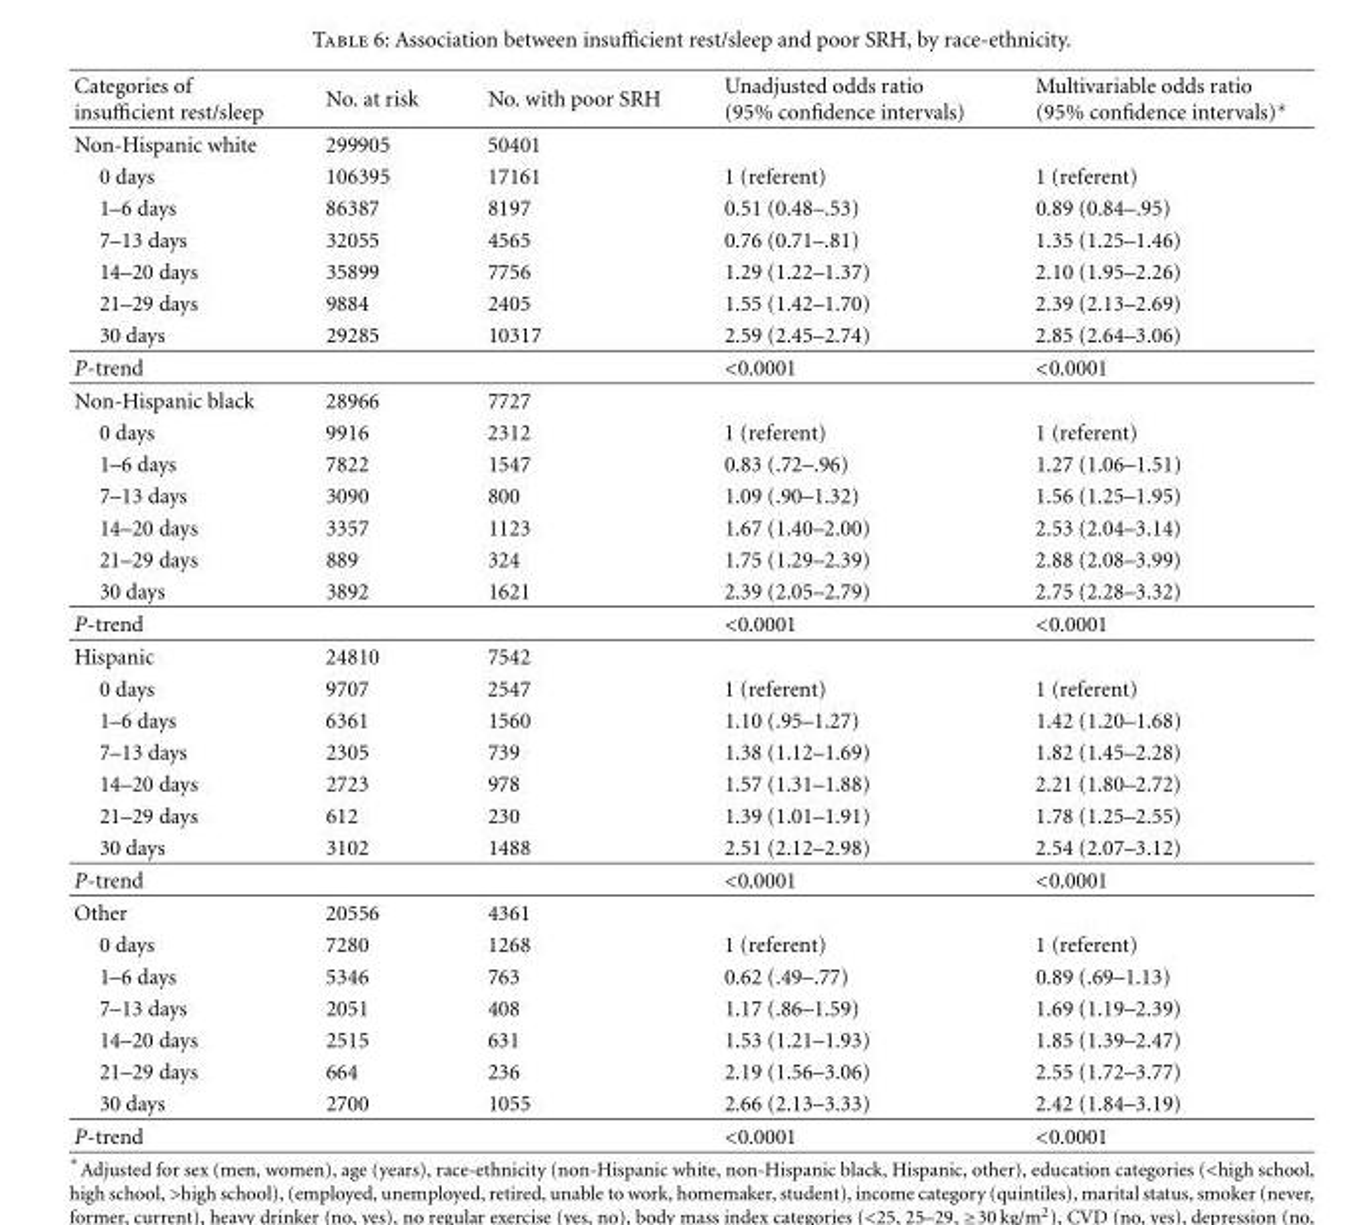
<table><thead><tr><td>Categories of insufficient rest/sleep</td><td>No. at risk</td><td>No. with poor SRH</td><td>Unadjusted odds ratio (95% confidence intervals)</td><td>Multivariable odds ratio (95% confidence intervals)∗</td></tr></thead><tbody><tr><td>Non-Hispanic white</td><td>299905</td><td>50401</td><td></td><td></td></tr><tr><td>0 days</td><td>106395</td><td>17161</td><td>1 (referent)</td><td>1 (referent)</td></tr><tr><td>1–6 days</td><td>86387</td><td>8197</td><td>0.51 (0.48–.53)</td><td>0.89 (0.84–.95)</td></tr><tr><td>7–13 days</td><td>32055</td><td>4565</td><td>0.76 (0.71–.81)</td><td>1.35 (1.25–1.46)</td></tr><tr><td>14–20 days</td><td>35899</td><td>7756</td><td>1.29 (1.22–1.37)</td><td>2.10 (1.95–2.26)</td></tr><tr><td>21–29 days</td><td>9884</td><td>2405</td><td>1.55 (1.42–1.70)</td><td>2.39 (2.13–2.69)</td></tr><tr><td>30 days</td><td>29285</td><td>10317</td><td>2.59 (2.45–2.74)</td><td>2.85 (2.64–3.06)</td></tr><tr><td>P-trend</td><td></td><td></td><td>&lt;0.0001</td><td>&lt;0.0001</td></tr><tr><td>Non-Hispanic black</td><td>28966</td><td>7727</td><td></td><td></td></tr><tr><td>0 days</td><td>9916</td><td>2312</td><td>1 (referent)</td><td>1 (referent)</td></tr><tr><td>1–6 days</td><td>7822</td><td>1547</td><td>0.83 (.72–.96)</td><td>1.27 (1.06–1.51)</td></tr><tr><td>7–13 days</td><td>3090</td><td>800</td><td>1.09 (.90–1.32)</td><td>1.56 (1.25–1.95)</td></tr><tr><td>14–20 days</td><td>3357</td><td>1123</td><td>1.67 (1.40–2.00)</td><td>2.53 (2.04–3.14)</td></tr><tr><td>21–29 days</td><td>889</td><td>324</td><td>1.75 (1.29–2.39)</td><td>2.88 (2.08–3.99)</td></tr><tr><td>30 days</td><td>3892</td><td>1621</td><td>2.39 (2.05–2.79)</td><td>2.75 (2.28–3.32)</td></tr><tr><td>P-trend</td><td></td><td></td><td>&lt;0.0001</td><td>&lt;0.0001</td></tr><tr><td>Hispanic</td><td>24810</td><td>7542</td><td></td><td></td></tr><tr><td>0 days</td><td>9707</td><td>2547</td><td>1 (referent)</td><td>1 (referent)</td></tr><tr><td>1–6 days</td><td>6361</td><td>1560</td><td>1.10 (.95–1.27)</td><td>1.42 (1.20–1.68)</td></tr><tr><td>7–13 days</td><td>2305</td><td>739</td><td>1.38 (1.12–1.69)</td><td>1.82 (1.45–2.28)</td></tr><tr><td>14–20 days</td><td>2723</td><td>978</td><td>1.57 (1.31–1.88)</td><td>2.21 (1.80–2.72)</td></tr><tr><td>21–29 days</td><td>612</td><td>230</td><td>1.39 (1.01–1.91)</td><td>1.78 (1.25–2.55)</td></tr><tr><td>30 days</td><td>3102</td><td>1488</td><td>2.51 (2.12–2.98)</td><td>2.54 (2.07–3.12)</td></tr><tr><td>P-trend</td><td></td><td></td><td>&lt;0.0001</td><td>&lt;0.0001</td></tr><tr><td>Other</td><td>20556</td><td>4361</td><td></td><td></td></tr><tr><td>0 days</td><td>7280</td><td>1268</td><td>1 (referent)</td><td>1 (referent)</td></tr><tr><td>1–6 days</td><td>5346</td><td>763</td><td>0.62 (.49–.77)</td><td>0.89 (.69–1.13)</td></tr><tr><td>7–13 days</td><td>2051</td><td>408</td><td>1.17 (.86–1.59)</td><td>1.69 (1.19–2.39)</td></tr><tr><td>14–20 days</td><td>2515</td><td>631</td><td>1.53 (1.21–1.93)</td><td>1.85 (1.39–2.47)</td></tr><tr><td>21–29 days</td><td>664</td><td>236</td><td>2.19 (1.56–3.06)</td><td>2.55 (1.72–3.77)</td></tr><tr><td>30 days</td><td>2700</td><td>1055</td><td>2.66 (2.13–3.33)</td><td>2.42 (1.84–3.19)</td></tr><tr><td>P-trend</td><td></td><td></td><td>&lt;0.0001</td><td>&lt;0.0001</td></tr></tbody></table>